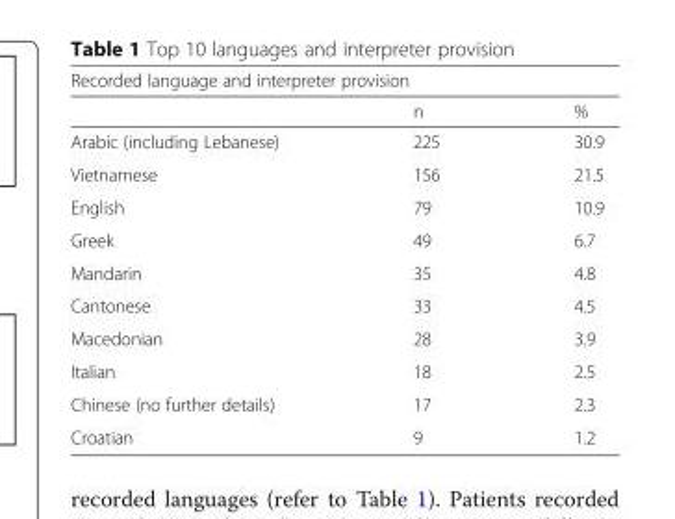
<table><thead><tr><td colspan="3">Recorded language and interpreter provision</td></tr><tr><td></td><td>n</td><td>%</td></tr></thead><tbody><tr><td>Arabic (including Lebanese)</td><td>225</td><td>30.9</td></tr><tr><td>Vietnamese</td><td>156</td><td>21.5</td></tr><tr><td>English</td><td>79</td><td>10.9</td></tr><tr><td>Greek</td><td>49</td><td>6.7</td></tr><tr><td>Mandarin</td><td>35</td><td>4.8</td></tr><tr><td>Cantonese</td><td>33</td><td>4.5</td></tr><tr><td>Macedonian</td><td>28</td><td>3.9</td></tr><tr><td>Italian</td><td>18</td><td>2.5</td></tr><tr><td>Chinese (no further details)</td><td>17</td><td>2.3</td></tr><tr><td>Croatian</td><td>9</td><td>1.2</td></tr></tbody></table>